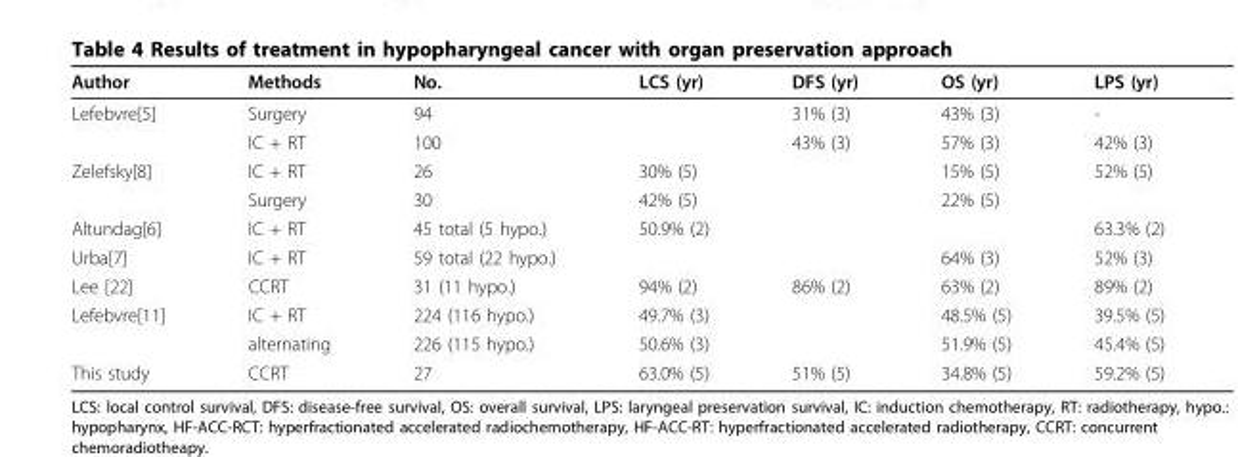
<table><thead><tr><td>Author</td><td>Methods</td><td>No.</td><td>LCS (yr)</td><td>DFS (yr)</td><td>OS (yr)</td><td>LPS (yr)</td></tr></thead><tbody><tr><td rowspan="2">Lefebvre[5]</td><td>Surgery</td><td>94</td><td></td><td>31% (3)</td><td>43% (3)</td><td>-</td></tr><tr><td>IC + RT</td><td>100</td><td></td><td>43% (3)</td><td>57% (3)</td><td>42% (3)</td></tr><tr><td rowspan="2">Zelefsky[8]</td><td>IC + RT</td><td>26</td><td>30% (5)</td><td></td><td>15% (5)</td><td>52% (5)</td></tr><tr><td>Surgery</td><td>30</td><td>42% (5)</td><td></td><td>22% (5)</td><td></td></tr><tr><td>Altundag[6]</td><td>IC + RT</td><td>45 total (5 hypo.)</td><td>50.9% (2)</td><td></td><td></td><td>63.3% (2)</td></tr><tr><td>Urba[7]</td><td>IC + RT</td><td>59 total (22 hypo.)</td><td></td><td></td><td>64% (3)</td><td>52% (3)</td></tr><tr><td>Lee [22]</td><td>CCRT</td><td>31 (11 hypo.)</td><td>94% (2)</td><td>86% (2)</td><td>63% (2)</td><td>89% (2)</td></tr><tr><td rowspan="2">Lefebvre[11]</td><td>IC + RT</td><td>224 (116 hypo.)</td><td>49.7% (3)</td><td></td><td>48.5% (5)</td><td>39.5% (5)</td></tr><tr><td>alternating</td><td>226 (115 hypo.)</td><td>50.6% (3)</td><td></td><td>51.9% (5)</td><td>45.4% (5)</td></tr><tr><td>This study</td><td>CCRT</td><td>27</td><td>63.0% (5)</td><td>51% (5)</td><td>34.8% (5)</td><td>59.2% (5)</td></tr></tbody></table>